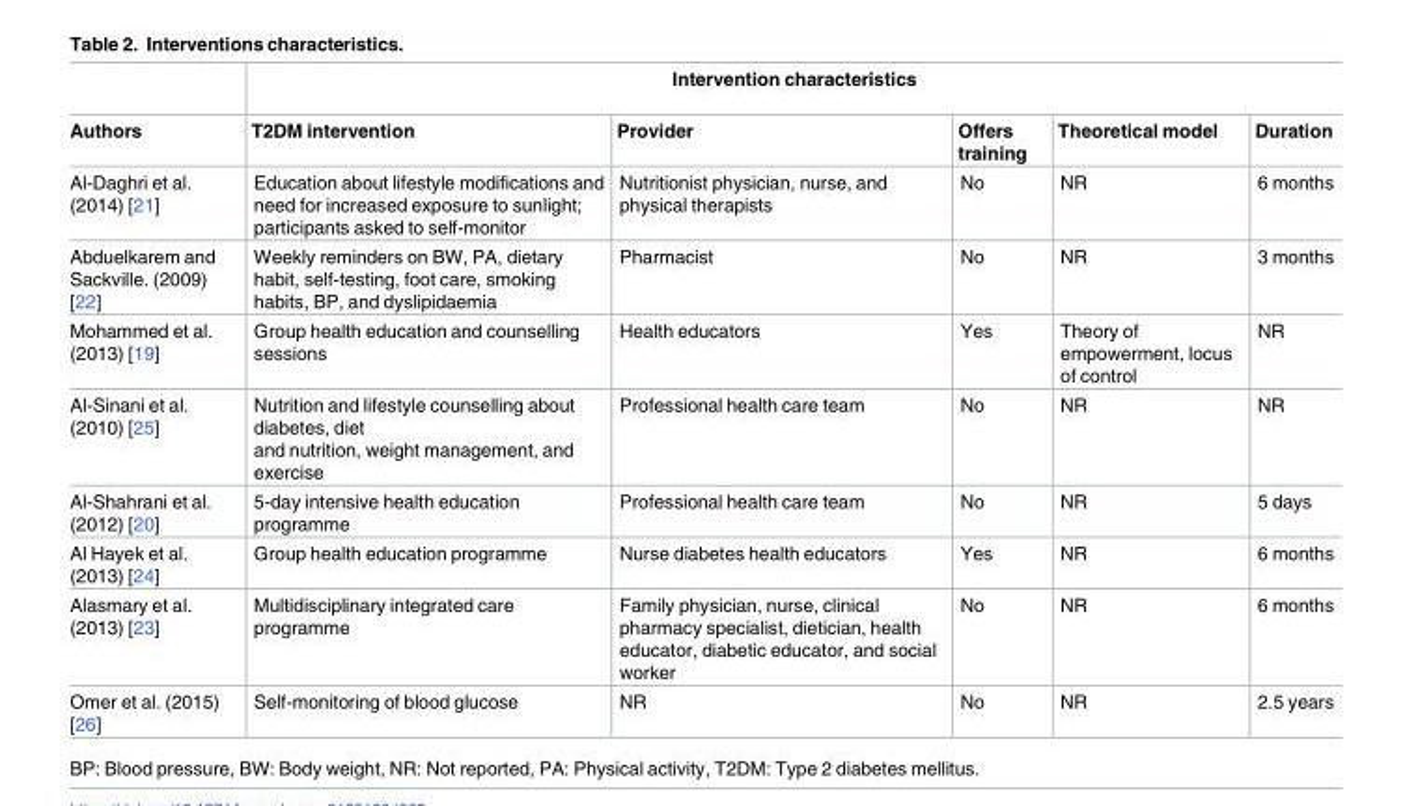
<table><thead><tr><td rowspan="2">Authors</td><td colspan="5">Intervention characteristics</td></tr><tr><td>T2DM intervention</td><td>Provider</td><td>Offers training</td><td>Theoretical model</td><td>Duration</td></tr></thead><tbody><tr><td>Al-Daghri et al. (2014) [21]</td><td>Education about lifestyle modifications and need for increased exposure to sunlight; participants asked to self-monitor</td><td>Nutritionist physician, nurse, and physical therapists</td><td>No</td><td>NR</td><td>6 months</td></tr><tr><td>Abduelkarem and Sackville. (2009) [22]</td><td>Weekly reminders on BW, PA, dietary habit, self-testing, foot care, smoking habits, BP, and dyslipidaemia</td><td>Pharmacist</td><td>No</td><td>NR</td><td>3 months</td></tr><tr><td>Mohammed et al. (2013) [19]</td><td>Group health education and counselling sessions</td><td>Health educators</td><td>Yes</td><td>Theory of empowerment, locus of control</td><td>NR</td></tr><tr><td>Al-Sinani et al. (2010) [25]</td><td>Nutrition and lifestyle counselling about diabetes, diet and nutrition, weight management, and exercise</td><td>Professional health care team</td><td>No</td><td>NR</td><td>NR</td></tr><tr><td>Al-Shahrani et al. (2012) [20]</td><td>5-day intensive health education programme</td><td>Professional health care team</td><td>No</td><td>NR</td><td>5 days</td></tr><tr><td>Al Hayek et al. (2013) [24]</td><td>Group health education programme</td><td>Nurse diabetes health educators</td><td>Yes</td><td>NR</td><td>6 months</td></tr><tr><td>Alasmary et al. (2013) [23]</td><td>Multidisciplinary integrated care programme</td><td>Family physician, nurse, clinical pharmacy specialist, dietician, health educator, diabetic educator, and social worker</td><td>No</td><td>NR</td><td>6 months</td></tr><tr><td>Omer et al. (2015) [26]</td><td>Self-monitoring of blood glucose</td><td>NR</td><td>No</td><td>NR</td><td>2.5 years</td></tr></tbody></table>